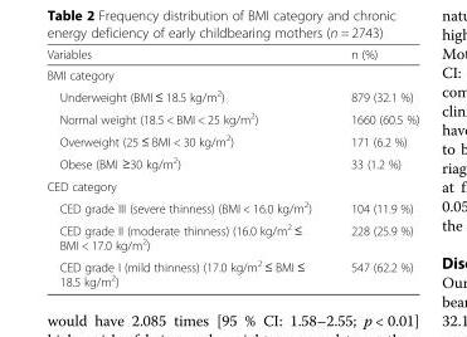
<table><thead><tr><td>Variables</td><td>n (%)</td></tr></thead><tbody><tr><td colspan="2">BMI category</td></tr><tr><td>Underweight (BMI ≤ 18.5 kg/m<sup>2</sup>)</td><td>879 (32.1 %)</td></tr><tr><td>Normal weight (18.5 &lt; BMI &lt; 25 kg/m<sup>2</sup>)</td><td>1660 (60.5 %)</td></tr><tr><td>Overweight (25 ≤ BMI &lt; 30 kg/m<sup>2</sup>)</td><td>171 (6.2 %)</td></tr><tr><td>Obese (BMI ≥30 kg/m<sup>2</sup>)</td><td>33 (1.2 %)</td></tr><tr><td colspan="2">CED category</td></tr><tr><td>CED grade III (severe thinness) (BMI &lt; 16.0 kg/m<sup>2</sup>)</td><td>104 (11.9 %)</td></tr><tr><td>CED grade II (moderate thinness) (16.0 kg/m<sup>2</sup> ≤ BMI &lt; 17.0 kg/m<sup>2</sup>)</td><td>228 (25.9 %)</td></tr><tr><td>CED grade I (mild thinness) (17.0 kg/m<sup>2</sup> ≤ BMI ≤ 18.5 kg/m<sup>2</sup>)</td><td>547 (62.2 %)</td></tr></tbody></table>